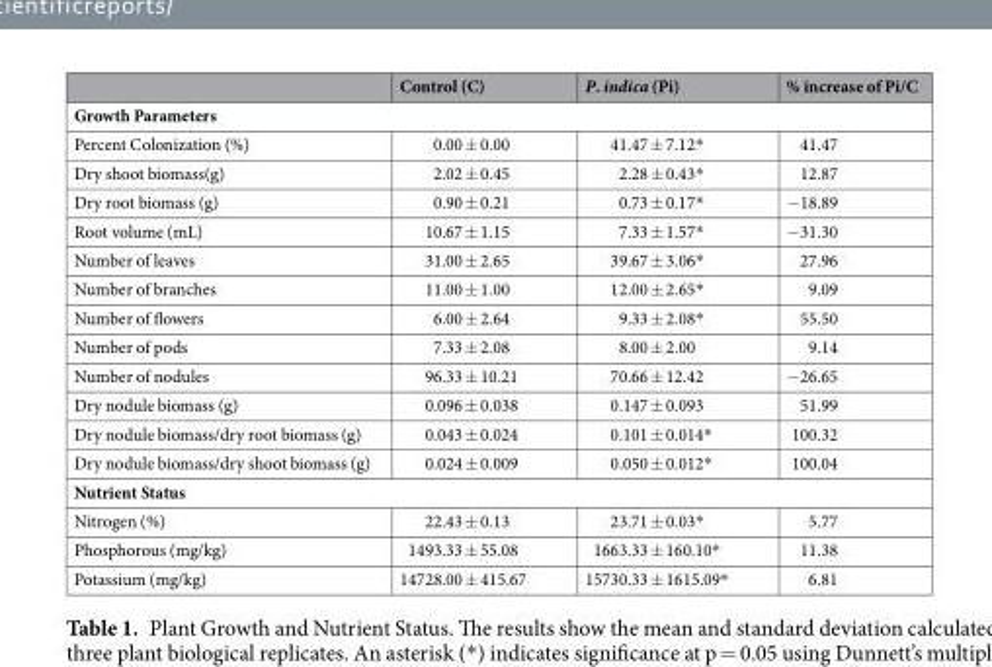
<table><thead><tr><td></td><td>Control (C)</td><td>P. indica (Pi)</td><td>% increase of Pi/C</td></tr></thead><tbody><tr><td colspan="4">Growth Parameters</td></tr><tr><td>Percent Colonization (%)</td><td>0.00 ± 0.00</td><td>41.47 ± 7.12*</td><td>41.47</td></tr><tr><td>Dry shoot biomass(g)</td><td>2.02 ± 0.45</td><td>2.28 ± 0.43*</td><td>12.87</td></tr><tr><td>Dry root biomass (g)</td><td>0.90 ± 0.21</td><td>0.73 ± 0.17*</td><td>-18.89</td></tr><tr><td>Root volume (mL)</td><td>10.67 ± 1.15</td><td>7.33 ± 1.57*</td><td>-31.30</td></tr><tr><td>Number of leaves</td><td>31.00 ± 2.65</td><td>39.67 ± 3.06*</td><td>27.96</td></tr><tr><td>Number of branches</td><td>11.00 ± 1.00</td><td>12.00 ± 2.65*</td><td>9.09</td></tr><tr><td>Number of flowers</td><td>6.00 ± 2.64</td><td>9.33 ± 2.08*</td><td>55.50</td></tr><tr><td>Number of pods</td><td>7.33 ± 2.08</td><td>8.00 ± 2.00</td><td>9.14</td></tr><tr><td>Number of nodules</td><td>96.33 ± 10.21</td><td>70.66 ± 12.42</td><td>-26.65</td></tr><tr><td>Dry nodule biomass (g)</td><td>0.096 ± 0.038</td><td>0.147 ± 0.093</td><td>51.99</td></tr><tr><td>Dry nodule biomass/dry root biomass (g)</td><td>0.043 ± 0.024</td><td>0.101 ± 0.014*</td><td>100.32</td></tr><tr><td>Dry nodule biomass/dry shoot biomass (g)</td><td>0.024 ± 0.009</td><td>0.050 ± 0.012*</td><td>100.04</td></tr><tr><td colspan="4">Nutrient Status</td></tr><tr><td>Nitrogen (%)</td><td>22.43 ± 0.13</td><td>23.71 ± 0.03*</td><td>5.77</td></tr><tr><td>Phosphorous (mg/kg)</td><td>1493.33 ± 55.08</td><td>1663.33 ± 160.10*</td><td>11.38</td></tr><tr><td>Potassium (mg/kg)</td><td>14728.00 ± 415.67</td><td>15730.33 ± 1615.09*</td><td>6.81</td></tr></tbody></table>